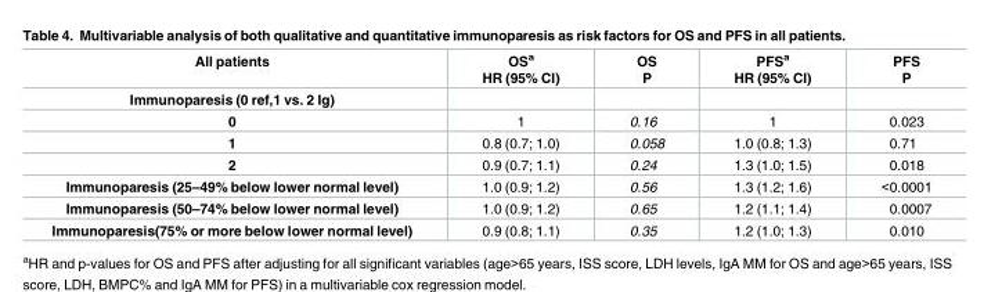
<table><thead><tr><td>All patients</td><td>OS<sup>a</sup> HR (95% CI)</td><td>OS P</td><td>PFS<sup>a</sup> HR (95% CI)</td><td>PFS P</td></tr></thead><tbody><tr><td colspan="5">Immunoparesis (0 ref,1 vs. 2 Ig)</td></tr><tr><td>0</td><td>1</td><td>0.16</td><td>1</td><td>0.023</td></tr><tr><td>1</td><td>0.8 (0.7; 1.0)</td><td>0.058</td><td>1.0 (0.8; 1.3)</td><td>0.71</td></tr><tr><td>2</td><td>0.9 (0.7; 1.1)</td><td>0.24</td><td>1.3 (1.0; 1.5)</td><td>0.018</td></tr><tr><td>Immunoparesis (25–49% below lower normal level)</td><td>1.0 (0.9; 1.2)</td><td>0.56</td><td>1.3 (1.2; 1.6)</td><td>&lt;0.0001</td></tr><tr><td>Immunoparesis (50–74% below lower normal level)</td><td>1.0 (0.9; 1.2)</td><td>0.65</td><td>1.2 (1.1; 1.4)</td><td>0.0007</td></tr><tr><td>Immunoparesis(75% or more below lower normal level)</td><td>0.9 (0.8; 1.1)</td><td>0.35</td><td>1.2 (1.0; 1.3)</td><td>0.010</td></tr></tbody></table>